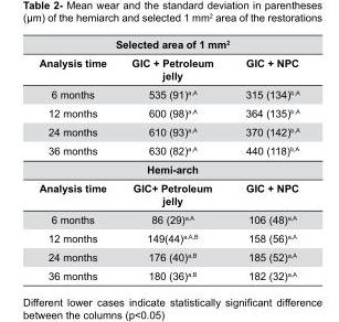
<table><tbody><tr><td colspan="3">Selected area of 1 mm<sup>2</sup></td></tr><tr><td>Analysis time</td><td>GIC + Petroleum jelly</td><td>GIC + NPC</td></tr><tr><td>6 months</td><td>535 (91)<sup>a,A</sup></td><td>315 (134)<sup>b,A</sup></td></tr><tr><td>12 months</td><td>600 (98)<sup>a,A</sup></td><td>364 (135)<sup>b,A</sup></td></tr><tr><td>24 months</td><td>610 (93)<sup>a,A</sup></td><td>370 (142)<sup>b,A</sup></td></tr><tr><td>36 months</td><td>630 (82)<sup>a,A</sup></td><td>440 (118)<sup>b,A</sup></td></tr><tr><td colspan="3">Hemi-arch</td></tr><tr><td>Analysis time</td><td>GIC+ Petroleum jelly</td><td>GIC + NPC</td></tr><tr><td>6 months</td><td>86 (29)<sup>a,A</sup></td><td>106 (48)<sup>a,A</sup></td></tr><tr><td>12 months</td><td>149(44)<sup>a,A,B</sup></td><td>158 (56)<sup>a,A</sup></td></tr><tr><td>24 months</td><td>176 (40)<sup>a,B</sup></td><td>185 (52)<sup>a,A</sup></td></tr><tr><td>36 months</td><td>180 (36)<sup>a,B</sup></td><td>182 (32)<sup>a,A</sup></td></tr></tbody></table>